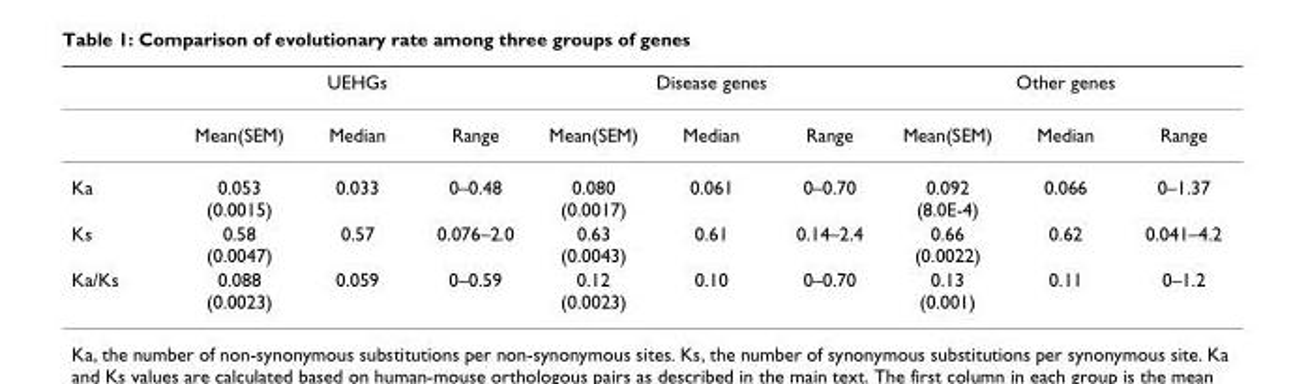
<table><thead><tr><td rowspan="2"></td><td colspan="3">UEHGs</td><td colspan="3">Disease genes</td><td colspan="3">Other genes</td></tr><tr><td>Mean(SEM)</td><td>Median</td><td>Range</td><td>Mean(SEM)</td><td>Median</td><td>Range</td><td>Mean(SEM)</td><td>Median</td><td>Range</td></tr></thead><tbody><tr><td>Ka</td><td>0.053 (0.0015)</td><td>0.033</td><td>0–0.48</td><td>0.080 (0.0017)</td><td>0.061</td><td>0–0.70</td><td>0.092 (8.0E-4)</td><td>0.066</td><td>0–1.37</td></tr><tr><td>Ks</td><td>0.58 (0.0047)</td><td>0.57</td><td>0.076–2.0</td><td>0.63 (0.0043)</td><td>0.61</td><td>0.14–2.4</td><td>0.66 (0.0022)</td><td>0.62</td><td>0.041–4.2</td></tr><tr><td>Ka/Ks</td><td>0.088 (0.0023)</td><td>0.059</td><td>0–0.59</td><td>0.12 (0.0023)</td><td>0.10</td><td>0–0.70</td><td>0.13 (0.001)</td><td>0.11</td><td>0–1.2</td></tr></tbody></table>